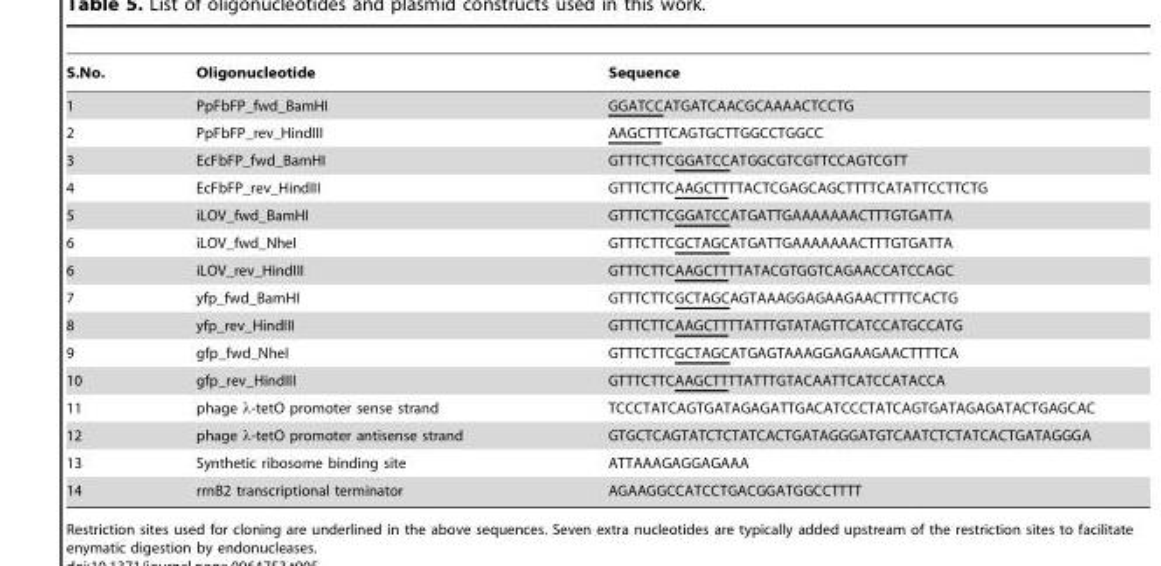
<table><thead><tr><td>S.No.</td><td>Oligonucleotide</td><td>Sequence</td></tr></thead><tbody><tr><td>1</td><td>PpFbFP_fwd_BamHI</td><td>GGATCCATGATCAACGCAAAACTCCTG</td></tr><tr><td>2</td><td>PpFbFP_rev_HindIII</td><td>AAGCTTTCAGTGCTTGGCCTGGCC</td></tr><tr><td>3</td><td>EcFbFP_fwd_BamHI</td><td>GTTTCTTCGGATCCATGGCGTCGTTCCAGTCGTT</td></tr><tr><td>4</td><td>EcFbFP_rev_HindIII</td><td>GTTTCTTCAAGCTTTTACTCGAGCAGCTTTTCATATTCCTTCTG</td></tr><tr><td>5</td><td>iLOV_fwd_BamHI</td><td>GTTTCTTCGGATCCATGATTGAAAAAAACTTTGTGATTA</td></tr><tr><td>6</td><td>iLOV_fwd_NheI</td><td>GTTTCTTCGCTAGCATGATTGAAAAAAACTTTGTGATTA</td></tr><tr><td>6</td><td>iLOV_rev_HindIII</td><td>GTTTCTTCAAGCTTTTATACGTGGTCAGAACCATCCAGC</td></tr><tr><td>7</td><td>yfp_fwd_BamHI</td><td>GTTTCTTCGCTAGCAGTAAAGGAGAAGAACTTTTCACTG</td></tr><tr><td>8</td><td>yfp_rev_HindIII</td><td>GTTTCTTCAAGCTTTTATTTGTATAGTTCATCCATGCCATG</td></tr><tr><td>9</td><td>gfp_fwd_NheI</td><td>GTTTCTTCGCTAGCATGAGTAAAGGAGAAGAACTTTTCA</td></tr><tr><td>10</td><td>gfp_rev_HindIII</td><td>GTTTCTTCAAGCTTTTATTTGTACAATTCATCCATACCA</td></tr><tr><td>11</td><td>phage λ-tetO promoter sense strand</td><td>TCCCTATCAGTGATAGAGATTGACATCCCTATCAGTGATAGAGATACTGAGCAC</td></tr><tr><td>12</td><td>phage λ-tetO promoter antisense strand</td><td>GTGCTCAGTATCTCTATCACTGATAGGGATGTCAATCTCTATCACTGATAGGGA</td></tr><tr><td>13</td><td>Synthetic ribosome binding site</td><td>ATTAAAGAGGAGAAA</td></tr><tr><td>14</td><td>rrnB2 transcriptional terminator</td><td>AGAAGGCCATCCTGACGGATGGCCTTTT</td></tr></tbody></table>